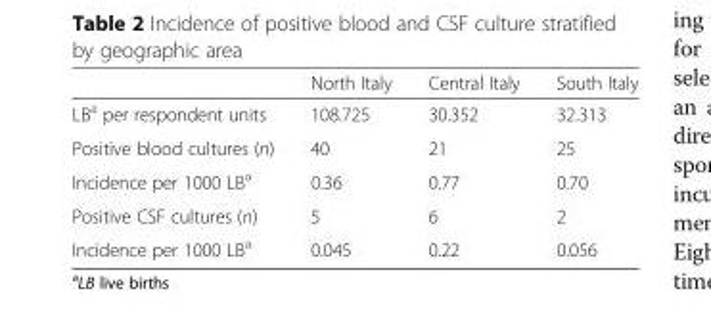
<table><thead><tr><td></td><td>North Italy</td><td>Central Italy</td><td>South Italy</td></tr></thead><tbody><tr><td>LB<sup>a</sup> per respondent units</td><td>108.725</td><td>30.352</td><td>32.313</td></tr><tr><td>Positive blood cultures (n)</td><td>40</td><td>21</td><td>25</td></tr><tr><td>Incidence per 1000 LB<sup>a</sup></td><td>0.36</td><td>0.77</td><td>0.70</td></tr><tr><td>Positive CSF cultures (n)</td><td>5</td><td>6</td><td>2</td></tr><tr><td>Incidence per 1000 LB<sup>a</sup></td><td>0.045</td><td>0.22</td><td>0.056</td></tr></tbody></table>